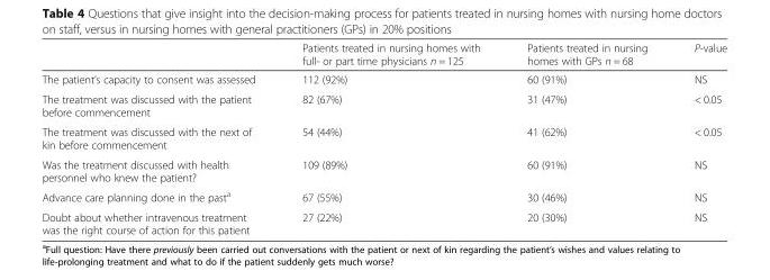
<table><thead><tr><td></td><td>Patients treated in nursing homes with full- or part time physicians n = 125</td><td>Patients treated in nursing homes with GPs n = 68</td><td>P-value</td></tr></thead><tbody><tr><td>The patient’s capacity to consent was assessed</td><td>112 (92%)</td><td>60 (91%)</td><td>NS</td></tr><tr><td>The treatment was discussed with the patient before commencement</td><td>82 (67%)</td><td>31 (47%)</td><td>&lt; 0.05</td></tr><tr><td>The treatment was discussed with the next of kin before commencement</td><td>54 (44%)</td><td>41 (62%)</td><td>&lt; 0.05</td></tr><tr><td>Was the treatment discussed with health personnel who knew the patient?</td><td>109 (89%)</td><td>60 (91%)</td><td>NS</td></tr><tr><td>Advance care planning done in the past<sup>a</sup></td><td>67 (55%)</td><td>30 (46%)</td><td>NS</td></tr><tr><td>Doubt about whether intravenous treatment was the right course of action for this patient</td><td>27 (22%)</td><td>20 (30%)</td><td>NS</td></tr></tbody></table>